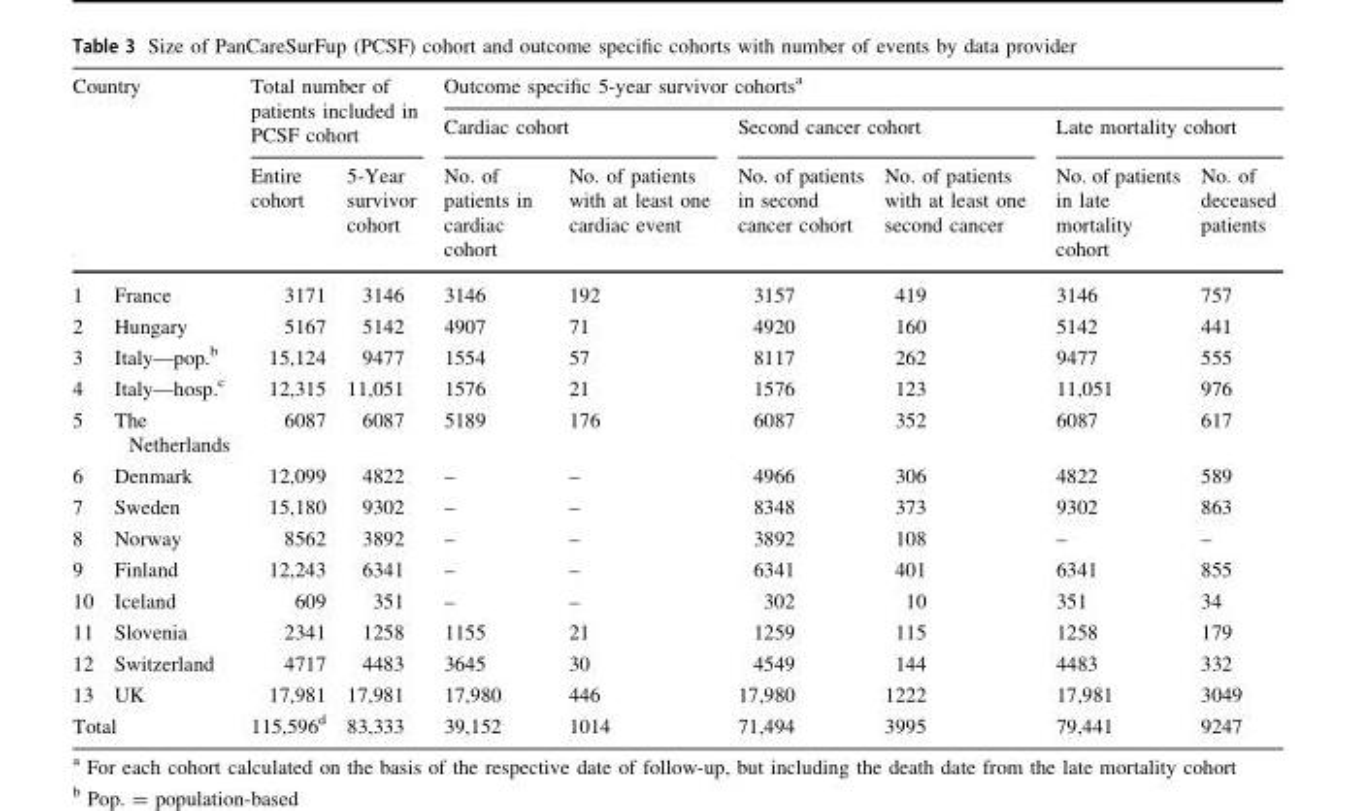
<table><thead><tr><td rowspan="3" colspan="2">Country</td><td rowspan="2" colspan="2">Total number of patients included in PCSF cohort</td><td colspan="6">Outcome specific 5-year survivor cohorts<sup>a</sup></td></tr><tr><td colspan="2">Cardiac cohort</td><td colspan="2">Second cancer cohort</td><td colspan="2">Late mortality cohort</td></tr><tr><td rowspan="2">Entire cohort 3171</td><td rowspan="2">5-Year survivor cohort 3146</td><td rowspan="2">No. of patients in cardiac cohort 3146</td><td rowspan="2">No. of patients with at least one cardiac event 192</td><td rowspan="2">No. of patients in second cancer cohort 3157</td><td rowspan="2">No. of patients with at least one second cancer 419</td><td rowspan="2">No. of patients in late mortality cohort 3146</td><td rowspan="2">No. of deceased patients 757</td></tr><tr><td>1</td><td>France</td></tr></thead><tbody><tr><td>2</td><td>Hungary</td><td>5167</td><td>5142</td><td>4907</td><td>71</td><td>4920</td><td>160</td><td>5142</td><td>441</td></tr><tr><td>3</td><td>Italy—pop.<sup>b</sup></td><td>15,124</td><td>9477</td><td>1554</td><td>57</td><td>8117</td><td>262</td><td>9477</td><td>555</td></tr><tr><td>4</td><td>Italy—hosp.<sup>c</sup></td><td>12,315</td><td>11,051</td><td>1576</td><td>21</td><td>1576</td><td>123</td><td>11,051</td><td>976</td></tr><tr><td>5</td><td>The Netherlands</td><td>6087</td><td>6087</td><td>5189</td><td>176</td><td>6087</td><td>352</td><td>6087</td><td>617</td></tr><tr><td>6</td><td>Denmark</td><td>12,099</td><td>4822</td><td>–</td><td>–</td><td>4966</td><td>306</td><td>4822</td><td>589</td></tr><tr><td>7</td><td>Sweden</td><td>15,180</td><td>9302</td><td>–</td><td>–</td><td>8348</td><td>373</td><td>9302</td><td>863</td></tr><tr><td>8</td><td>Norway</td><td>8562</td><td>3892</td><td>–</td><td>–</td><td>3892</td><td>108</td><td>–</td><td>–</td></tr><tr><td>9</td><td>Finland</td><td>12,243</td><td>6341</td><td>–</td><td>–</td><td>6341</td><td>401</td><td>6341</td><td>855</td></tr><tr><td>10</td><td>Iceland</td><td>609</td><td>351</td><td>–</td><td>–</td><td>302</td><td>10</td><td>351</td><td>34</td></tr><tr><td>11</td><td>Slovenia</td><td>2341</td><td>1258</td><td>1155</td><td>21</td><td>1259</td><td>115</td><td>1258</td><td>179</td></tr><tr><td>12</td><td>Switzerland</td><td>4717</td><td>4483</td><td>3645</td><td>30</td><td>4549</td><td>144</td><td>4483</td><td>332</td></tr><tr><td>13</td><td>UK</td><td>17,981</td><td>17,981</td><td>17,980</td><td>446</td><td>17,980</td><td>1222</td><td>17,981</td><td>3049</td></tr><tr><td colspan="2">Total</td><td>115,596<sup>d</sup></td><td>83,333</td><td>39,152</td><td>1014</td><td>71,494</td><td>3995</td><td>79,441</td><td>9247</td></tr></tbody></table>